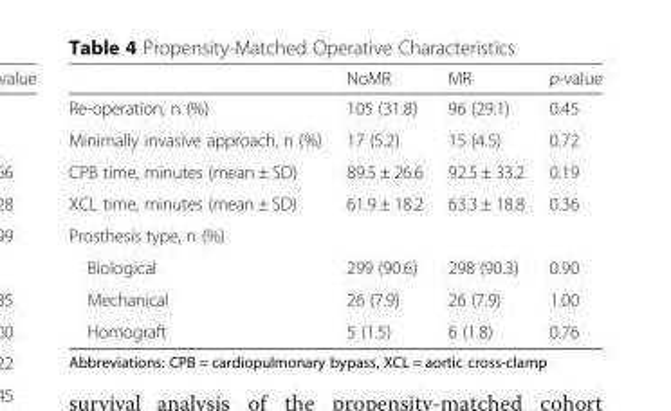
<table><thead><tr><td></td><td>NoMR</td><td>MR</td><td>p-value</td></tr></thead><tbody><tr><td>Re-operation, n (%)</td><td>105 (31.8)</td><td>96 (29.1)</td><td>0.45</td></tr><tr><td>Minimally invasive approach, n (%)</td><td>17 (5.2)</td><td>15 (4.5)</td><td>0.72</td></tr><tr><td>CPB time, minutes (mean ± SD)</td><td>89.5 ± 26.6</td><td>92.5 ± 33.2</td><td>0.19</td></tr><tr><td>XCL time, minutes (mean ± SD)</td><td>61.9 ± 18.2</td><td>63.3 ± 18.8</td><td>0.36</td></tr><tr><td colspan="4">Prosthesis type, n (%)</td></tr><tr><td>Biological</td><td>299 (90.6)</td><td>298 (90.3)</td><td>0.90</td></tr><tr><td>Mechanical</td><td>26 (7.9)</td><td>26 (7.9)</td><td>1.00</td></tr><tr><td>Homograft</td><td>5 (1.5)</td><td>6 (1.8)</td><td>0.76</td></tr></tbody></table>